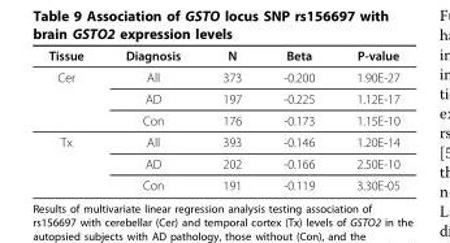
<table><thead><tr><td>Tissue</td><td>Diagnosis</td><td>N</td><td>Beta</td><td>P-value</td></tr></thead><tbody><tr><td rowspan="3">Cer</td><td>All</td><td>373</td><td>-0.200</td><td>1.90E-27</td></tr><tr><td>AD</td><td>197</td><td>-0.225</td><td>1.12E-17</td></tr><tr><td>Con</td><td>176</td><td>-0.173</td><td>1.15E-10</td></tr><tr><td rowspan="3">Tx</td><td>All</td><td>393</td><td>-0.146</td><td>1.20E-14</td></tr><tr><td>AD</td><td>202</td><td>-0.166</td><td>2.50E-10</td></tr><tr><td>Con</td><td>191</td><td>-0.119</td><td>3.30E-05</td></tr></tbody></table>